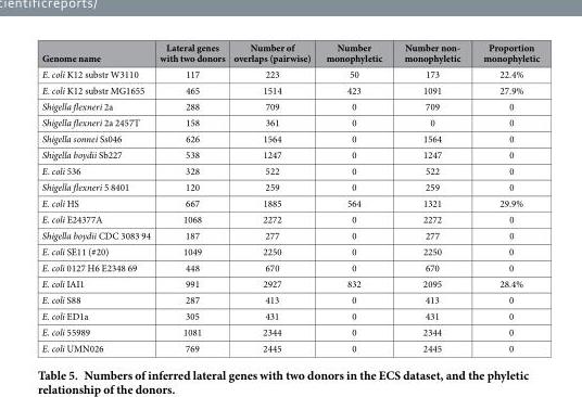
<table><thead><tr><td>Genome name</td><td>Lateral genes with two donors</td><td>Number of overlaps (pairwise)</td><td>Number monophyletic</td><td>Number non- monophyletic</td><td>Proportion monophyletic</td></tr></thead><tbody><tr><td>E. coli K12 substr W3110</td><td>117</td><td>223</td><td>50</td><td>173</td><td>22.4%</td></tr><tr><td>E. coli K12 substr MG1655</td><td>465</td><td>1514</td><td>423</td><td>1091</td><td>27.9%</td></tr><tr><td>Shigella flexneri 2a</td><td>288</td><td>709</td><td>0</td><td>709</td><td>0</td></tr><tr><td>Shigella flexneri 2a 2457T</td><td>158</td><td>361</td><td>0</td><td>0</td><td>0</td></tr><tr><td>Shigella sonnei Ss046</td><td>626</td><td>1564</td><td>0</td><td>1564</td><td>0</td></tr><tr><td>Shigella boydii Sb227</td><td>538</td><td>1247</td><td>0</td><td>1247</td><td>0</td></tr><tr><td>E. coli 536</td><td>328</td><td>522</td><td>0</td><td>522</td><td>0</td></tr><tr><td>Shigella flexneri 5 8401</td><td>120</td><td>259</td><td>0</td><td>259</td><td>0</td></tr><tr><td>E. coli HS</td><td>667</td><td>1885</td><td>564</td><td>1321</td><td>29.9%</td></tr><tr><td>E. coli E24377A</td><td>1068</td><td>2272</td><td>0</td><td>2272</td><td>0</td></tr><tr><td>Shigella boydii CDC 3083 94</td><td>187</td><td>277</td><td>0</td><td>277</td><td>0</td></tr><tr><td>E. coli SE11 (#20)</td><td>1049</td><td>2250</td><td>0</td><td>2250</td><td>0</td></tr><tr><td>E. coli 0127 H6 E2348 69</td><td>448</td><td>670</td><td>0</td><td>670</td><td>0</td></tr><tr><td>E. coli IAI1</td><td>991</td><td>2927</td><td>832</td><td>2095</td><td>28.4%</td></tr><tr><td>E. coli S88</td><td>287</td><td>413</td><td>0</td><td>413</td><td>0</td></tr><tr><td>E. coli ED1a</td><td>305</td><td>431</td><td>0</td><td>431</td><td>0</td></tr><tr><td>E. coli 55989</td><td>1081</td><td>2344</td><td>0</td><td>2344</td><td>0</td></tr><tr><td>E. coli UMN026</td><td>769</td><td>2445</td><td>0</td><td>2445</td><td>0</td></tr></tbody></table>